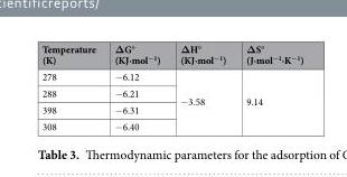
<table><thead><tr><td>Temperature (K)</td><td>ΔG° (KJ·mol<sup>−1</sup>)</td><td>ΔH° (KJ·mol<sup>−1</sup>)</td><td>ΔS° (J·mol<sup>−1</sup>·K<sup>−1</sup>)</td></tr></thead><tbody><tr><td>278</td><td>−6.12</td><td rowspan="4">−3.58</td><td rowspan="4">9.14</td></tr><tr><td>288</td><td>−6.21</td></tr><tr><td>398</td><td>−6.31</td></tr><tr><td>308</td><td>−6.40</td></tr></tbody></table>